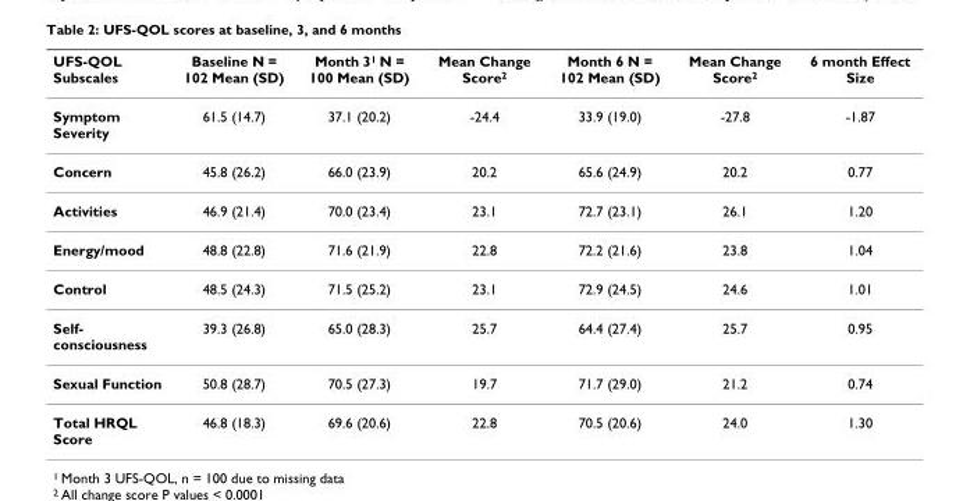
<table><thead><tr><td>UFS-QOL Subscales</td><td>Baseline N = 102 Mean (SD)</td><td>Month 3<sup>1</sup> N = 100 Mean (SD)</td><td>Mean Change Score<sup>2</sup></td><td>Month 6 N = 102 Mean (SD)</td><td>Mean Change Score<sup>2</sup></td><td>6 month Effect Size</td></tr></thead><tbody><tr><td>Symptom Severity</td><td>61.5 (14.7)</td><td>37.1 (20.2)</td><td>-24.4</td><td>33.9 (19.0)</td><td>-27.8</td><td>-1.87</td></tr><tr><td>Concern</td><td>45.8 (26.2)</td><td>66.0 (23.9)</td><td>20.2</td><td>65.6 (24.9)</td><td>20.2</td><td>0.77</td></tr><tr><td>Activities</td><td>46.9 (21.4)</td><td>70.0 (23.4)</td><td>23.1</td><td>72.7 (23.1)</td><td>26.1</td><td>1.20</td></tr><tr><td>Energy/mood</td><td>48.8 (22.8)</td><td>71.6 (21.9)</td><td>22.8</td><td>72.2 (21.6)</td><td>23.8</td><td>1.04</td></tr><tr><td>Control</td><td>48.5 (24.3)</td><td>71.5 (25.2)</td><td>23.1</td><td>72.9 (24.5)</td><td>24.6</td><td>1.01</td></tr><tr><td>Self- consciousness</td><td>39.3 (26.8)</td><td>65.0 (28.3)</td><td>25.7</td><td>64.4 (27.4)</td><td>25.7</td><td>0.95</td></tr><tr><td>Sexual Function</td><td>50.8 (28.7)</td><td>70.5 (27.3)</td><td>19.7</td><td>71.7 (29.0)</td><td>21.2</td><td>0.74</td></tr><tr><td>Total HRQL Score</td><td>46.8 (18.3)</td><td>69.6 (20.6)</td><td>22.8</td><td>70.5 (20.6)</td><td>24.0</td><td>1.30</td></tr></tbody></table>